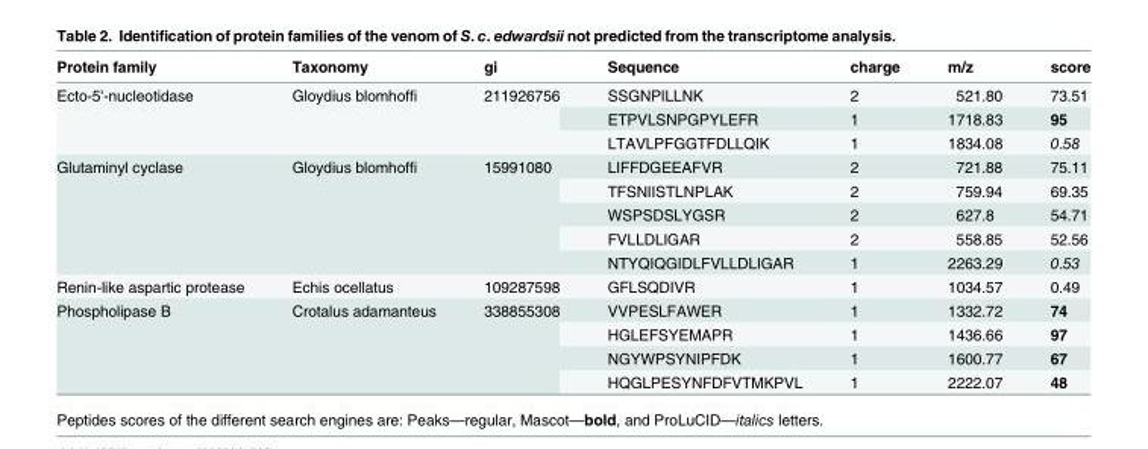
<table><thead><tr><td>Protein family</td><td>Taxonomy</td><td>gi</td><td>Sequence</td><td>charge</td><td>m/z</td><td>score</td></tr></thead><tbody><tr><td rowspan="3">Ecto-5&#x27;-nucleotidase</td><td rowspan="3">Gloydius blomhoffi</td><td rowspan="3">211926756</td><td>SSGNPILLNK</td><td>2</td><td>521.80</td><td>73.51</td></tr><tr><td>ETPVLSNPGPYLEFR</td><td>1</td><td>1718.83</td><td>95</td></tr><tr><td>LTAVLPFGGTFDLLQIK</td><td>1</td><td>1834.08</td><td>0.58</td></tr><tr><td rowspan="5">Glutaminyl cyclase</td><td rowspan="5">Gloydius blomhoffi</td><td rowspan="5">15991080</td><td>LIFFDGEEAFVR</td><td>2</td><td>721.88</td><td>75.11</td></tr><tr><td>TFSNIISTLNPLAK</td><td>2</td><td>759.94</td><td>69.35</td></tr><tr><td>WSPSDSLYGSR</td><td>2</td><td>627.8</td><td>54.71</td></tr><tr><td>FVLLDLIGAR</td><td>2</td><td>558.85</td><td>52.56</td></tr><tr><td>NTYQIQGIDLFVLLDLIGAR</td><td>1</td><td>2263.29</td><td>0.53</td></tr><tr><td>Renin-like aspartic protease</td><td>Echis ocellatus</td><td>109287598</td><td>GFLSQDIVR</td><td>1</td><td>1034.57</td><td>0.49</td></tr><tr><td rowspan="4">Phospholipase B</td><td rowspan="4">Crotalus adamanteus</td><td rowspan="4">338855308</td><td>VVPESLFAWER</td><td>1</td><td>1332.72</td><td>74</td></tr><tr><td>HGLEFSYEMAPR</td><td>1</td><td>1436.66</td><td>97</td></tr><tr><td>NGYWPSYNIPFDK</td><td>1</td><td>1600.77</td><td>67</td></tr><tr><td>HQGLPESYNFDFVTMKPVL</td><td>1</td><td>2222.07</td><td>48</td></tr></tbody></table>